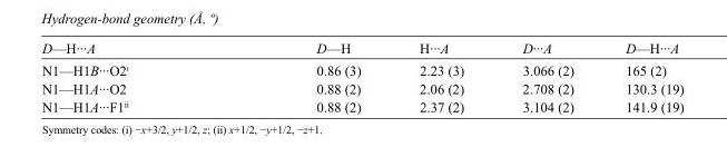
<table><tbody><tr><td>D—H···A</td><td>D—H</td><td>H···A</td><td>D···A</td><td>D—H···A</td></tr><tr><td>N1—H1B···O2<sup>i</sup></td><td>0.86 (3)</td><td>2.23 (3)</td><td>3.066 (2)</td><td>165 (2)</td></tr><tr><td>N1—H1A···O2</td><td>0.88 (2)</td><td>2.06 (2)</td><td>2.708 (2)</td><td>130.3 (19)</td></tr><tr><td>N1—H1A···F1<sup>ii</sup></td><td>0.88 (2)</td><td>2.37 (2)</td><td>3.104 (2)</td><td>141.9 (19)</td></tr></tbody></table>